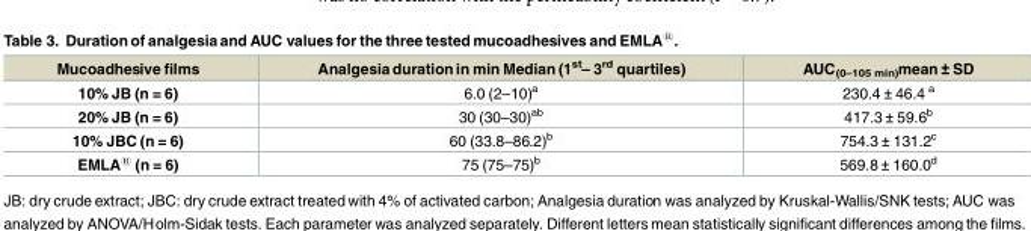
<table><thead><tr><td>Mucoadhesive films</td><td>Analgesia duration in min Median (1<sup>st</sup>– 3<sup>rd</sup> quartiles)</td><td>AUC<sub>(0–105 min)</sub>mean ± SD</td></tr></thead><tbody><tr><td>10% JB (n = 6)</td><td>6.0 (2–10)<sup>a</sup></td><td>230.4 ± 46.4 <sup>a</sup></td></tr><tr><td>20% JB (n = 6)</td><td>30 (30–30)<sup>ab</sup></td><td>417.3 ± 59.6<sup>b</sup></td></tr><tr><td>10% JBC (n = 6)</td><td>60 (33.8–86.2)<sup>b</sup></td><td>754.3 ± 131.2<sup>c</sup></td></tr><tr><td>EMLA<sup>®</sup> (n = 6)</td><td>75 (75–75)<sup>b</sup></td><td>569.8 ± 160.0<sup>d</sup></td></tr></tbody></table>